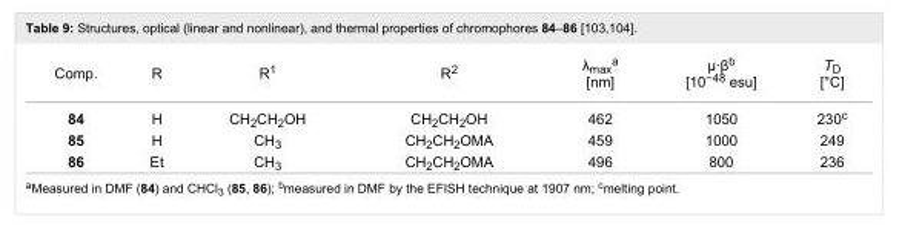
<table><tbody><tr><td>Comp.</td><td>R</td><td>R<sup>1</sup></td><td>R<sup>2</sup></td><td>λ<sub>max</sub><sup>a</sup> [nm]</td><td>μ·β<sup>b</sup> [10<sup>−48</sup> esu]</td><td>T<sub>D</sub> [°C]</td></tr><tr><td>84</td><td>H</td><td>CH<sub>2</sub>CH<sub>2</sub>OH</td><td>CH<sub>2</sub>CH<sub>2</sub>OH</td><td>462</td><td>1050</td><td>230<sup>c</sup></td></tr><tr><td>85</td><td>H</td><td>CH<sub>3</sub></td><td>CH<sub>2</sub>CH<sub>2</sub>OMA</td><td>459</td><td>1000</td><td>249</td></tr><tr><td>86</td><td>Et</td><td>CH<sub>3</sub></td><td>CH<sub>2</sub>CH<sub>2</sub>OMA</td><td>496</td><td>800</td><td>236</td></tr></tbody></table>